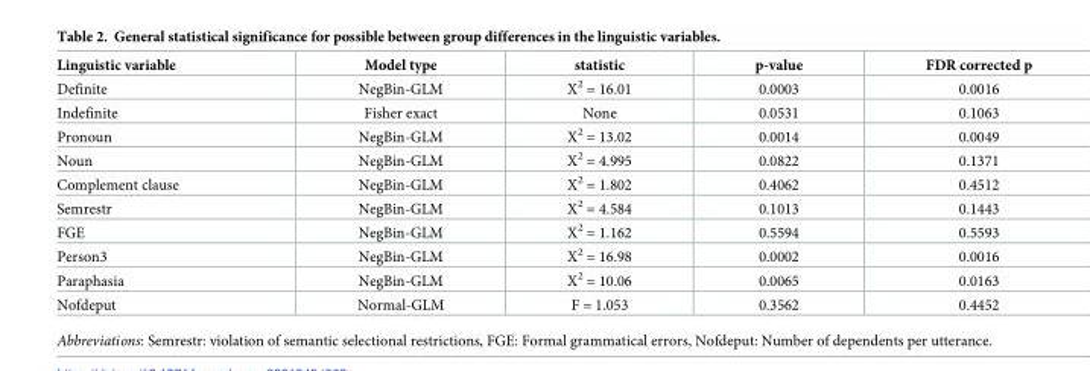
<table><thead><tr><td>Linguistic variable</td><td>Model type</td><td>statistic</td><td>p-value</td><td>FDR corrected p</td></tr></thead><tbody><tr><td>Definite</td><td>NegBin-GLM</td><td>X<sup>2</sup> = 16.01</td><td>0.0003</td><td>0.0016</td></tr><tr><td>Indefinite</td><td>Fisher exact</td><td>None</td><td>0.0531</td><td>0.1063</td></tr><tr><td>Pronoun</td><td>NegBin-GLM</td><td>X<sup>2</sup> = 13.02</td><td>0.0014</td><td>0.0049</td></tr><tr><td>Noun</td><td>NegBin-GLM</td><td>X<sup>2</sup> = 4.995</td><td>0.0822</td><td>0.1371</td></tr><tr><td>Complement clause</td><td>NegBin-GLM</td><td>X<sup>2</sup> = 1.802</td><td>0.4062</td><td>0.4512</td></tr><tr><td>Semrestr</td><td>NegBin-GLM</td><td>X<sup>2</sup> = 4.584</td><td>0.1013</td><td>0.1443</td></tr><tr><td>FGE</td><td>NegBin-GLM</td><td>X<sup>2</sup> = 1.162</td><td>0.5594</td><td>0.5593</td></tr><tr><td>Person3</td><td>NegBin-GLM</td><td>X<sup>2</sup> = 16.98</td><td>0.0002</td><td>0.0016</td></tr><tr><td>Paraphasia</td><td>NegBin-GLM</td><td>X<sup>2</sup> = 10.06</td><td>0.0065</td><td>0.0163</td></tr><tr><td>Nofdeput</td><td>Normal-GLM</td><td>F = 1.053</td><td>0.3562</td><td>0.4452</td></tr></tbody></table>